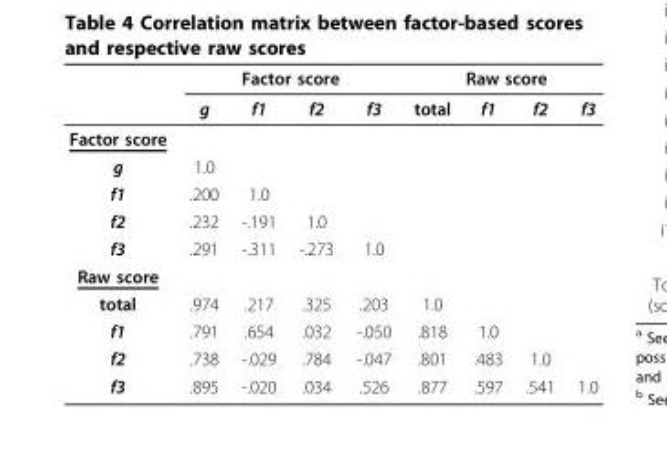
<table><thead><tr><td rowspan="2"></td><td colspan="4">Factor score</td><td colspan="4">Raw score</td></tr><tr><td>g</td><td>f1</td><td>f2</td><td>f3</td><td>total</td><td>f1</td><td>f2</td><td>f3</td></tr></thead><tbody><tr><td colspan="9">Factor score</td></tr><tr><td>g</td><td>1.0</td><td></td><td></td><td></td><td></td><td></td><td></td><td></td></tr><tr><td>f1</td><td>.200</td><td>1.0</td><td></td><td></td><td></td><td></td><td></td><td></td></tr><tr><td>f2</td><td>.232</td><td>-.191</td><td>1.0</td><td></td><td></td><td></td><td></td><td></td></tr><tr><td>f3</td><td>.291</td><td>-.311</td><td>-.273</td><td>1.0</td><td></td><td></td><td></td><td></td></tr><tr><td colspan="9">Raw score</td></tr><tr><td>total</td><td>.974</td><td>.217</td><td>.325</td><td>.203</td><td>1.0</td><td></td><td></td><td></td></tr><tr><td>f1</td><td>.791</td><td>.654</td><td>.032</td><td>-.050</td><td>.818</td><td>1.0</td><td></td><td></td></tr><tr><td>f2</td><td>.738</td><td>-.029</td><td>.784</td><td>-.047</td><td>.801</td><td>.483</td><td>1.0</td><td></td></tr><tr><td>f3</td><td>.895</td><td>-.020</td><td>.034</td><td>.526</td><td>.877</td><td>.597</td><td>.541</td><td>1.0</td></tr></tbody></table>